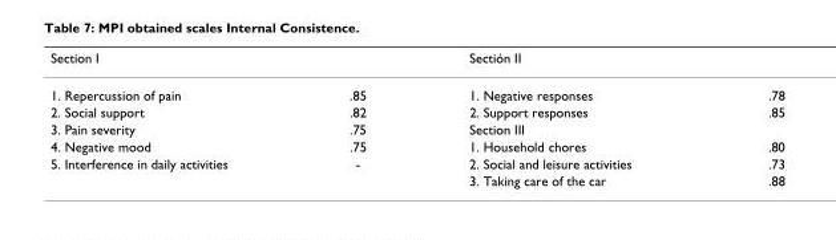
<table><thead><tr><td colspan="2">Section I</td><td colspan="2">Sectión II</td></tr><tr><td>1. Repercussion of pain</td><td>.85</td><td>1. Negative responses</td><td>.78</td></tr></thead><tbody><tr><td>2. Social support</td><td>.82</td><td>2. Support responses</td><td>.85</td></tr><tr><td>3. Pain severity</td><td>.75</td><td>Section III</td><td></td></tr><tr><td>4. Negative mood</td><td>.75</td><td>1. Household chores</td><td>.80</td></tr><tr><td rowspan="2">5. Interference in daily activities</td><td>-</td><td>2. Social and leisure activities</td><td>.73</td></tr><tr><td></td><td>3. Taking care of the car</td><td>.88</td></tr></tbody></table>